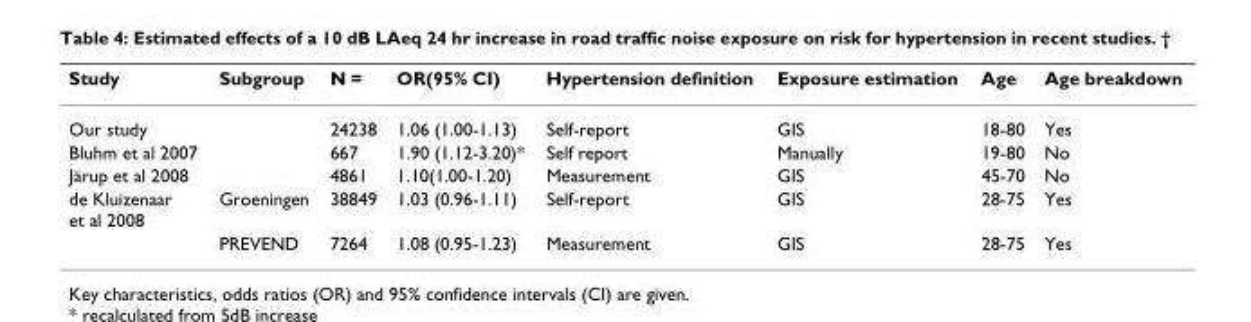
<table><thead><tr><td>Study</td><td>Subgroup</td><td>N =</td><td>OR(95% CI)</td><td>Hypertension definition</td><td>Exposure estimation</td><td>Age</td><td>Age breakdown</td></tr></thead><tbody><tr><td>Our study</td><td></td><td>24238</td><td>1.06 (1.00-1.13)</td><td>Self-report</td><td>GIS</td><td>18-80</td><td>Yes</td></tr><tr><td>Bluhm et al 2007</td><td></td><td>667</td><td>1.90 (1.12-3.20)*</td><td>Self report</td><td>Manually</td><td>19-80</td><td>No</td></tr><tr><td>Järup et al 2008</td><td></td><td>4861</td><td>1.10(1.00-1.20)</td><td>Measurement</td><td>GIS</td><td>45-70</td><td>No</td></tr><tr><td rowspan="2">de Kluizenaar et al 2008</td><td>Groeningen</td><td>38849</td><td>1.03 (0.96-1.11)</td><td>Self-report</td><td>GIS</td><td>28-75</td><td>Yes</td></tr><tr><td>PREVEND</td><td>7264</td><td>1.08 (0.95-1.23)</td><td>Measurement</td><td>GIS</td><td>28-75</td><td>Yes</td></tr></tbody></table>